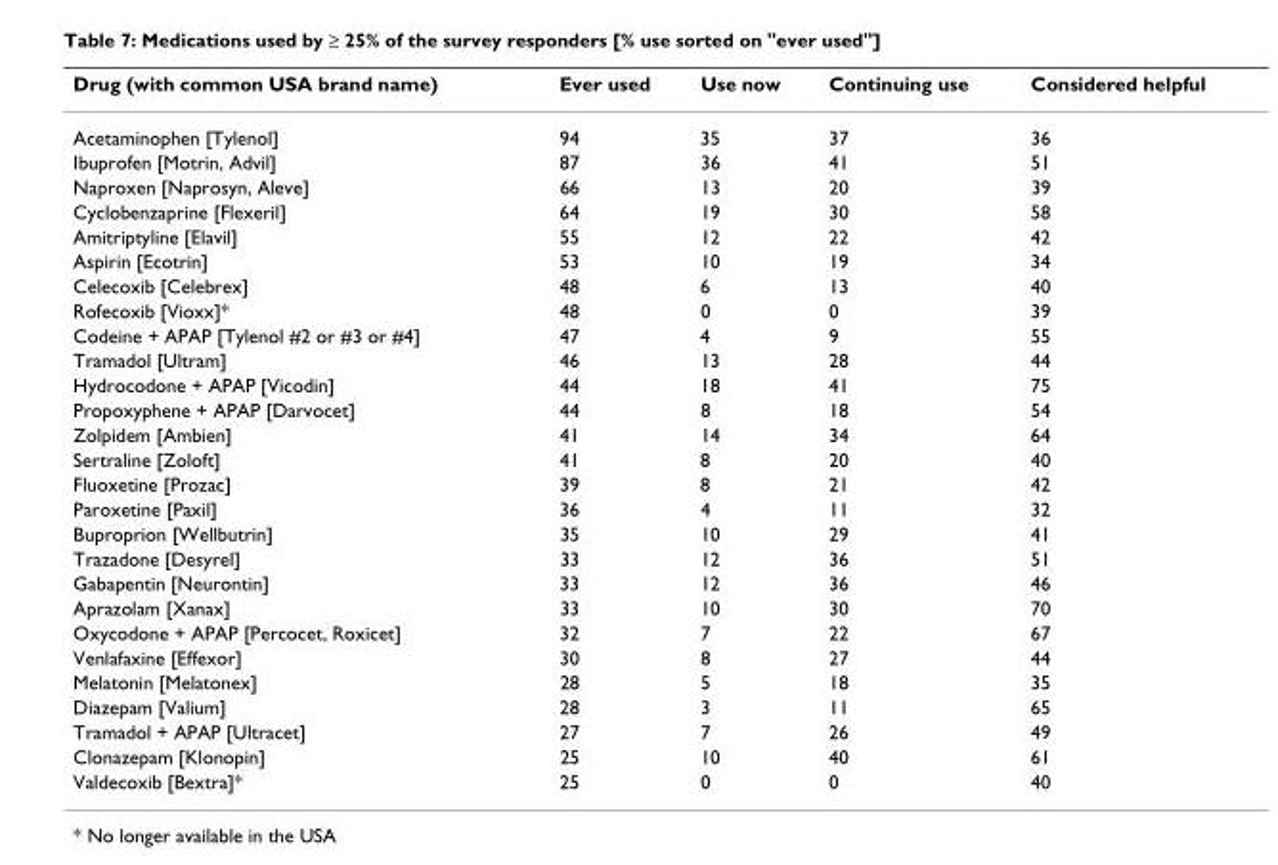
<table><thead><tr><td>Drug (with common USA brand name)</td><td>Ever used</td><td>Use now</td><td>Continuing use</td><td>Considered helpful</td></tr></thead><tbody><tr><td>Acetaminophen [Tylenol]</td><td>94</td><td>35</td><td>37</td><td>36</td></tr><tr><td>Ibuprofen [Motrin, Advil]</td><td>87</td><td>36</td><td>41</td><td>51</td></tr><tr><td>Naproxen [Naprosyn, Aleve]</td><td>66</td><td>13</td><td>20</td><td>39</td></tr><tr><td>Cyclobenzaprine [Flexeril]</td><td>64</td><td>19</td><td>30</td><td>58</td></tr><tr><td>Amitriptyline [Elavil]</td><td>55</td><td>12</td><td>22</td><td>42</td></tr><tr><td>Aspirin [Ecotrin]</td><td>53</td><td>10</td><td>19</td><td>34</td></tr><tr><td>Celecoxib [Celebrex]</td><td>48</td><td>6</td><td>13</td><td>40</td></tr><tr><td>Rofecoxib [Vioxx]*</td><td>48</td><td>0</td><td>0</td><td>39</td></tr><tr><td>Codeine + APAP [Tylenol #2 or #3 or #4]</td><td>47</td><td>4</td><td>9</td><td>55</td></tr><tr><td>Tramadol [Ultram]</td><td>46</td><td>13</td><td>28</td><td>44</td></tr><tr><td>Hydrocodone + APAP [Vicodin]</td><td>44</td><td>18</td><td>41</td><td>75</td></tr><tr><td>Propoxyphene + APAP [Darvocet]</td><td>44</td><td>8</td><td>18</td><td>54</td></tr><tr><td>Zolpidem [Ambien]</td><td>41</td><td>14</td><td>34</td><td>64</td></tr><tr><td>Sertraline [Zoloft]</td><td>41</td><td>8</td><td>20</td><td>40</td></tr><tr><td>Fluoxetine [Prozac]</td><td>39</td><td>8</td><td>21</td><td>42</td></tr><tr><td>Paroxetine [Paxil]</td><td>36</td><td>4</td><td>11</td><td>32</td></tr><tr><td>Buproprion [Wellbutrin]</td><td>35</td><td>10</td><td>29</td><td>41</td></tr><tr><td>Trazadone [Desyrel]</td><td>33</td><td>12</td><td>36</td><td>51</td></tr><tr><td>Gabapentin [Neurontin]</td><td>33</td><td>12</td><td>36</td><td>46</td></tr><tr><td>Aprazolam [Xanax]</td><td>33</td><td>10</td><td>30</td><td>70</td></tr><tr><td>Oxycodone + APAP [Percocet, Roxicet]</td><td>32</td><td>7</td><td>22</td><td>67</td></tr><tr><td>Venlafaxine [Effexor]</td><td>30</td><td>8</td><td>27</td><td>44</td></tr><tr><td>Melatonin [Melatonex]</td><td>28</td><td>5</td><td>18</td><td>35</td></tr><tr><td>Diazepam [Valium]</td><td>28</td><td>3</td><td>11</td><td>65</td></tr><tr><td>Tramadol + APAP [Ultracet]</td><td>27</td><td>7</td><td>26</td><td>49</td></tr><tr><td>Clonazepam [Klonopin]</td><td>25</td><td>10</td><td>40</td><td>61</td></tr><tr><td>Valdecoxib [Bextra]*</td><td>25</td><td>0</td><td>0</td><td>40</td></tr></tbody></table>